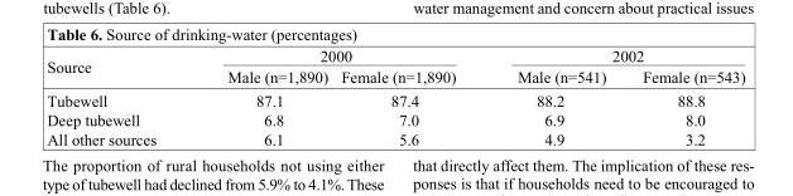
<table><thead><tr><td rowspan="2">Source</td><td colspan="2">2000</td><td colspan="2">2002</td></tr><tr><td>Male (n=1,890)</td><td>Female (n=1,890)</td><td>Male (n=541)</td><td>Female (n=543)</td></tr></thead><tbody><tr><td>Tubewell</td><td>87.1</td><td>87.4</td><td>88.2</td><td>88.8</td></tr><tr><td>Deep tubewell</td><td>6.8</td><td>7.0</td><td>6.9</td><td>8.0</td></tr><tr><td>All other sources</td><td>6.1</td><td>5.6</td><td>4.9</td><td>3.2</td></tr></tbody></table>